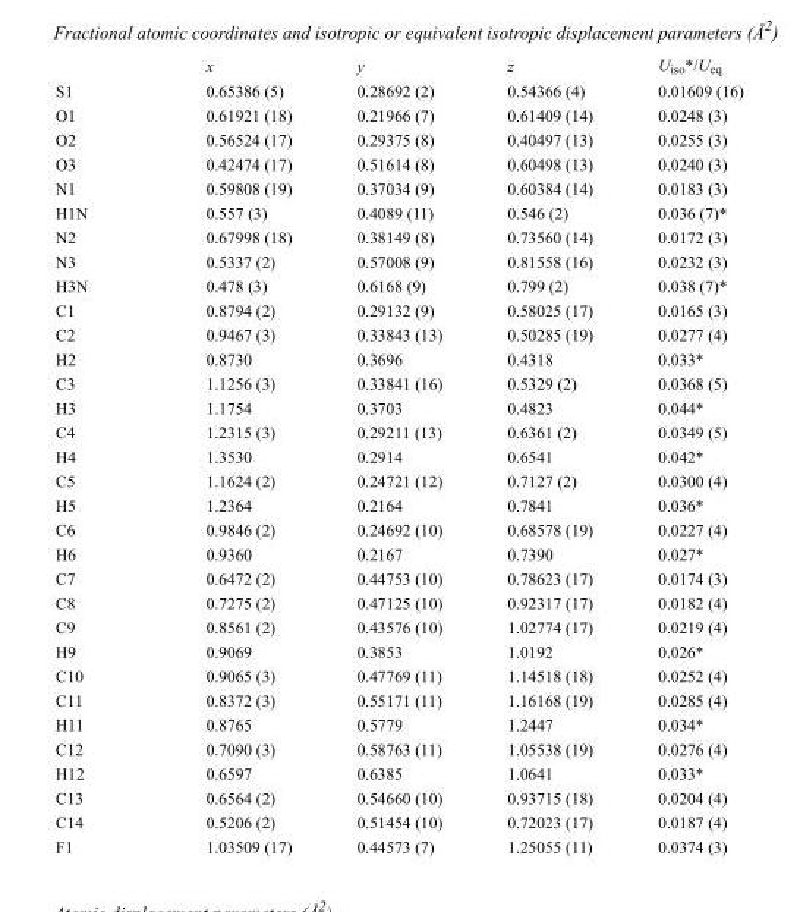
<table><thead><tr><td></td><td>x</td><td>y</td><td>z</td><td>U<sub>iso</sub>*/U<sub>eq</sub></td></tr></thead><tbody><tr><td>S1</td><td>0.65386 (5)</td><td>0.28692 (2)</td><td>0.54366 (4)</td><td>0.01609 (16)</td></tr><tr><td>O1</td><td>0.61921 (18)</td><td>0.21966 (7)</td><td>0.61409 (14)</td><td>0.0248 (3)</td></tr><tr><td>O2</td><td>0.56524 (17)</td><td>0.29375 (8)</td><td>0.40497 (13)</td><td>0.0255 (3)</td></tr><tr><td>O3</td><td>0.42474 (17)</td><td>0.51614 (8)</td><td>0.60498 (13)</td><td>0.0240 (3)</td></tr><tr><td>N1</td><td>0.59808 (19)</td><td>0.37034 (9)</td><td>0.60384 (14)</td><td>0.0183 (3)</td></tr><tr><td>H1N</td><td>0.557 (3)</td><td>0.4089 (11)</td><td>0.546 (2)</td><td>0.036 (7)*</td></tr><tr><td>N2</td><td>0.67998 (18)</td><td>0.38149 (8)</td><td>0.73560 (14)</td><td>0.0172 (3)</td></tr><tr><td>N3</td><td>0.5337 (2)</td><td>0.57008 (9)</td><td>0.81558 (16)</td><td>0.0232 (3)</td></tr><tr><td>H3N</td><td>0.478 (3)</td><td>0.6168 (9)</td><td>0.799 (2)</td><td>0.038 (7)*</td></tr><tr><td>C1</td><td>0.8794 (2)</td><td>0.29132 (9)</td><td>0.58025 (17)</td><td>0.0165 (3)</td></tr><tr><td>C2</td><td>0.9467 (3)</td><td>0.33843 (13)</td><td>0.50285 (19)</td><td>0.0277 (4)</td></tr><tr><td>H2</td><td>0.8730</td><td>0.3696</td><td>0.4318</td><td>0.033*</td></tr><tr><td>C3</td><td>1.1256 (3)</td><td>0.33841 (16)</td><td>0.5329 (2)</td><td>0.0368 (5)</td></tr><tr><td>H3</td><td>1.1754</td><td>0.3703</td><td>0.4823</td><td>0.044*</td></tr><tr><td>C4</td><td>1.2315 (3)</td><td>0.29211 (13)</td><td>0.6361 (2)</td><td>0.0349 (5)</td></tr><tr><td>H4</td><td>1.3530</td><td>0.2914</td><td>0.6541</td><td>0.042*</td></tr><tr><td>C5</td><td>1.1624 (2)</td><td>0.24721 (12)</td><td>0.7127 (2)</td><td>0.0300 (4)</td></tr><tr><td>H5</td><td>1.2364</td><td>0.2164</td><td>0.7841</td><td>0.036*</td></tr><tr><td>C6</td><td>0.9846 (2)</td><td>0.24692 (10)</td><td>0.68578 (19)</td><td>0.0227 (4)</td></tr><tr><td>H6</td><td>0.9360</td><td>0.2167</td><td>0.7390</td><td>0.027*</td></tr><tr><td>C7</td><td>0.6472 (2)</td><td>0.44753 (10)</td><td>0.78623 (17)</td><td>0.0174 (3)</td></tr><tr><td>C8</td><td>0.7275 (2)</td><td>0.47125 (10)</td><td>0.92317 (17)</td><td>0.0182 (4)</td></tr><tr><td>C9</td><td>0.8561 (2)</td><td>0.43576 (10)</td><td>1.02774 (17)</td><td>0.0219 (4)</td></tr><tr><td>H9</td><td>0.9069</td><td>0.3853</td><td>1.0192</td><td>0.026*</td></tr><tr><td>C10</td><td>0.9065 (3)</td><td>0.47769 (11)</td><td>1.14518 (18)</td><td>0.0252 (4)</td></tr><tr><td>C11</td><td>0.8372 (3)</td><td>0.55171 (11)</td><td>1.16168 (19)</td><td>0.0285 (4)</td></tr><tr><td>H11</td><td>0.8765</td><td>0.5779</td><td>1.2447</td><td>0.034*</td></tr><tr><td>C12</td><td>0.7090 (3)</td><td>0.58763 (11)</td><td>1.05538 (19)</td><td>0.0276 (4)</td></tr><tr><td>H12</td><td>0.6597</td><td>0.6385</td><td>1.0641</td><td>0.033*</td></tr><tr><td>C13</td><td>0.6564 (2)</td><td>0.54660 (10)</td><td>0.93715 (18)</td><td>0.0204 (4)</td></tr><tr><td>C14</td><td>0.5206 (2)</td><td>0.51454 (10)</td><td>0.72023 (17)</td><td>0.0187 (4)</td></tr><tr><td>F1</td><td>1.03509 (17)</td><td>0.44573 (7)</td><td>1.25055 (11)</td><td>0.0374 (3)</td></tr></tbody></table>